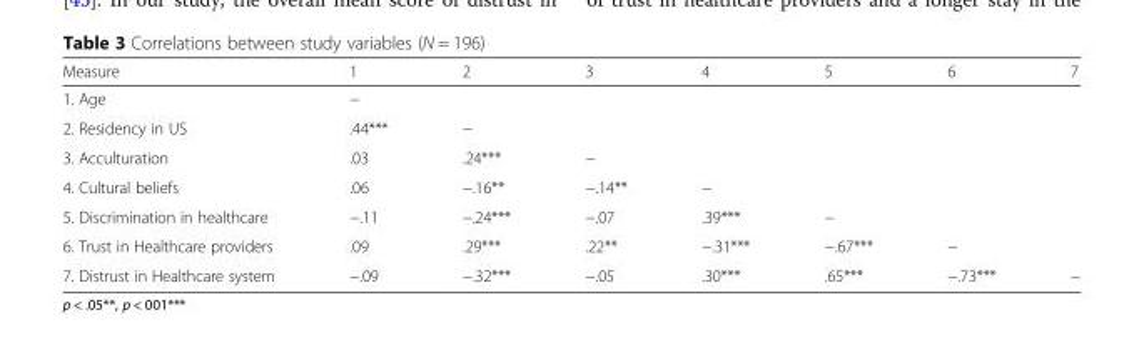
<table><thead><tr><td>Measure</td><td>1</td><td>2</td><td>3</td><td>4</td><td>5</td><td>6</td><td>7</td></tr></thead><tbody><tr><td>1. Age</td><td>−</td><td></td><td></td><td></td><td></td><td></td><td></td></tr><tr><td>2. Residency in US</td><td>.44***</td><td>−</td><td></td><td></td><td></td><td></td><td></td></tr><tr><td>3. Acculturation</td><td>.03</td><td>.24***</td><td>−</td><td></td><td></td><td></td><td></td></tr><tr><td>4. Cultural beliefs</td><td>.06</td><td>−.16**</td><td>−.14**</td><td>−</td><td></td><td></td><td></td></tr><tr><td>5. Discrimination in healthcare</td><td>−.11</td><td>−.24***</td><td>−.07</td><td>.39***</td><td>−</td><td></td><td></td></tr><tr><td>6. Trust in Healthcare providers</td><td>.09</td><td>.29***</td><td>.22**</td><td>−.31***</td><td>−.67***</td><td>−</td><td></td></tr><tr><td>7. Distrust in Healthcare system</td><td>−.09</td><td>−.32***</td><td>−.05</td><td>.30***</td><td>.65***</td><td>−.73***</td><td>−</td></tr></tbody></table>